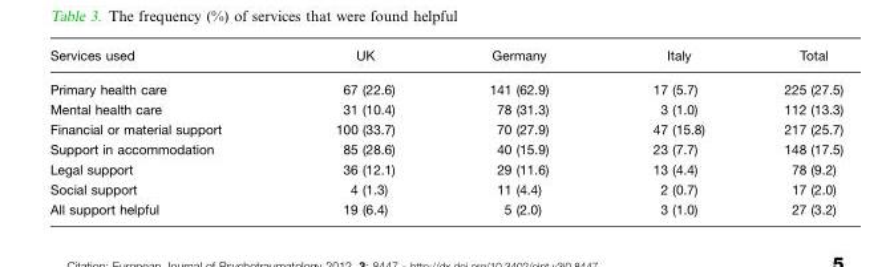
<table><thead><tr><td>Services used</td><td>UK</td><td>Germany</td><td>Italy</td><td>Total</td></tr></thead><tbody><tr><td>Primary health care</td><td>67 (22.6)</td><td>141 (62.9)</td><td>17 (5.7)</td><td>225 (27.5)</td></tr><tr><td>Mental health care</td><td>31 (10.4)</td><td>78 (31.3)</td><td>3 (1.0)</td><td>112 (13.3)</td></tr><tr><td>Financial or material support</td><td>100 (33.7)</td><td>70 (27.9)</td><td>47 (15.8)</td><td>217 (25.7)</td></tr><tr><td>Support in accommodation</td><td>85 (28.6)</td><td>40 (15.9)</td><td>23 (7.7)</td><td>148 (17.5)</td></tr><tr><td>Legal support</td><td>36 (12.1)</td><td>29 (11.6)</td><td>13 (4.4)</td><td>78 (9.2)</td></tr><tr><td>Social support</td><td>4 (1.3)</td><td>11 (4.4)</td><td>2 (0.7)</td><td>17 (2.0)</td></tr><tr><td>All support helpful</td><td>19 (6.4)</td><td>5 (2.0)</td><td>3 (1.0)</td><td>27 (3.2)</td></tr></tbody></table>